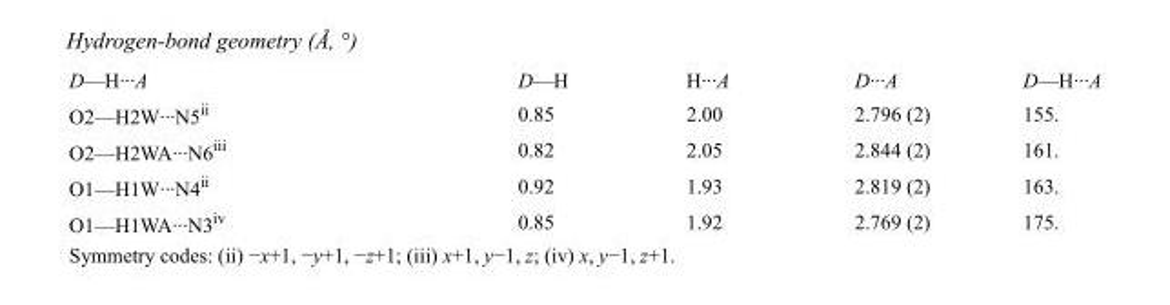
<table><tbody><tr><td>D—H···A</td><td>D—H</td><td>H···A</td><td>D···A</td><td>D—H···A</td></tr><tr><td>O2—H2W···N5<sup>ii</sup></td><td>0.85</td><td>2.00</td><td>2.796 (2)</td><td>155.</td></tr><tr><td>O2—H2WA···N6<sup>iii</sup></td><td>0.82</td><td>2.05</td><td>2.844 (2)</td><td>161.</td></tr><tr><td>O1—H1W···N4<sup>ii</sup></td><td>0.92</td><td>1.93</td><td>2.819 (2)</td><td>163.</td></tr><tr><td>O1—H1WA···N3<sup>iv</sup></td><td>0.85</td><td>1.92</td><td>2.769 (2)</td><td>175.</td></tr></tbody></table>